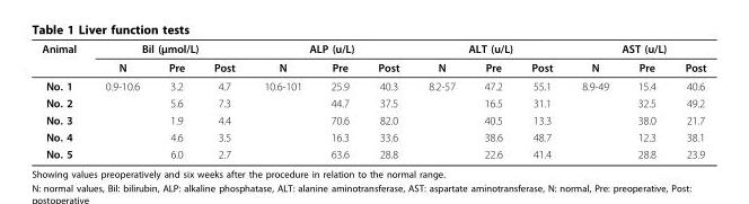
<table><thead><tr><td rowspan="2">Animal</td><td colspan="3">Bil (μmol/L)</td><td colspan="3">ALP (u/L)</td><td colspan="3">ALT (u/L)</td><td colspan="3">AST (u/L)</td></tr><tr><td>N</td><td>Pre</td><td>Post</td><td>N</td><td>Pre</td><td>Post</td><td>N</td><td>Pre</td><td>Post</td><td>N</td><td>Pre</td><td>Post</td></tr></thead><tbody><tr><td>No. 1</td><td>0.9-10.6</td><td>3.2</td><td>4.7</td><td>10.6-101</td><td>25.9</td><td>40.3</td><td>8.2-57</td><td>47.2</td><td>55.1</td><td>8.9-49</td><td>15.4</td><td>40.6</td></tr><tr><td>No. 2</td><td></td><td>5.6</td><td>7.3</td><td></td><td>44.7</td><td>37.5</td><td></td><td>16.5</td><td>31.1</td><td></td><td>32.5</td><td>49.2</td></tr><tr><td>No. 3</td><td></td><td>1.9</td><td>4.4</td><td></td><td>70.6</td><td>82.0</td><td></td><td>40.5</td><td>13.3</td><td></td><td>38.0</td><td>21.7</td></tr><tr><td>No. 4</td><td></td><td>4.6</td><td>3.5</td><td></td><td>16.3</td><td>33.6</td><td></td><td>38.6</td><td>48.7</td><td></td><td>12.3</td><td>38.1</td></tr><tr><td>No. 5</td><td></td><td>6.0</td><td>2.7</td><td></td><td>63.6</td><td>28.8</td><td></td><td>22.6</td><td>41.4</td><td></td><td>28.8</td><td>23.9</td></tr></tbody></table>